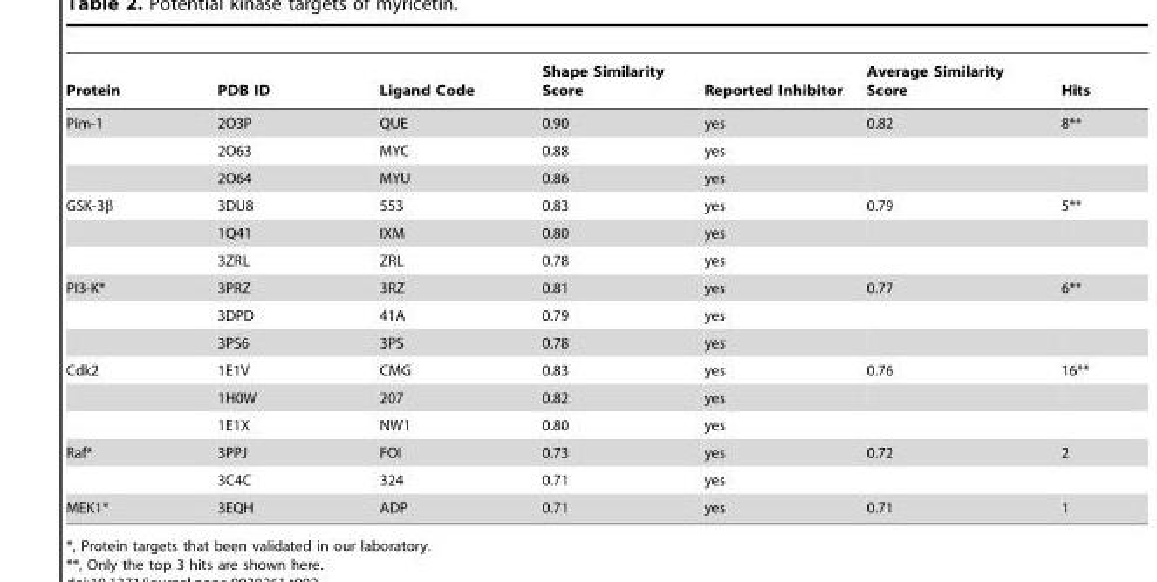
<table><thead><tr><td>Protein</td><td>PDB ID</td><td>Ligand Code</td><td>Shape Similarity Score</td><td>Reported Inhibitor</td><td>Average Similarity Score</td><td>Hits</td></tr></thead><tbody><tr><td rowspan="3">Pim-1</td><td>2O3P</td><td>QUE</td><td>0.90</td><td>yes</td><td>0.82</td><td>8**</td></tr><tr><td>2O63</td><td>MYC</td><td>0.88</td><td>yes</td><td></td><td></td></tr><tr><td>2O64</td><td>MYU</td><td>0.86</td><td>yes</td><td></td><td></td></tr><tr><td rowspan="3">GSK-3β</td><td>3DU8</td><td>553</td><td>0.83</td><td>yes</td><td>0.79</td><td>5**</td></tr><tr><td>1Q41</td><td>IXM</td><td>0.80</td><td>yes</td><td></td><td></td></tr><tr><td>3ZRL</td><td>ZRL</td><td>0.78</td><td>yes</td><td></td><td></td></tr><tr><td rowspan="3">PI3-K*</td><td>3PRZ</td><td>3RZ</td><td>0.81</td><td>yes</td><td>0.77</td><td>6**</td></tr><tr><td>3DPD</td><td>41A</td><td>0.79</td><td>yes</td><td></td><td></td></tr><tr><td>3PS6</td><td>3PS</td><td>0.78</td><td>yes</td><td></td><td></td></tr><tr><td rowspan="3">Cdk2</td><td>1E1V</td><td>CMG</td><td>0.83</td><td>yes</td><td>0.76</td><td>16**</td></tr><tr><td>1H0W</td><td>207</td><td>0.82</td><td>yes</td><td></td><td></td></tr><tr><td>1E1X</td><td>NW1</td><td>0.80</td><td>yes</td><td></td><td></td></tr><tr><td rowspan="2">Raf*</td><td>3PPJ</td><td>FOI</td><td>0.73</td><td>yes</td><td>0.72</td><td>2</td></tr><tr><td>3C4C</td><td>324</td><td>0.71</td><td>yes</td><td></td><td></td></tr><tr><td>MEK1*</td><td>3EQH</td><td>ADP</td><td>0.71</td><td>yes</td><td>0.71</td><td>1</td></tr></tbody></table>